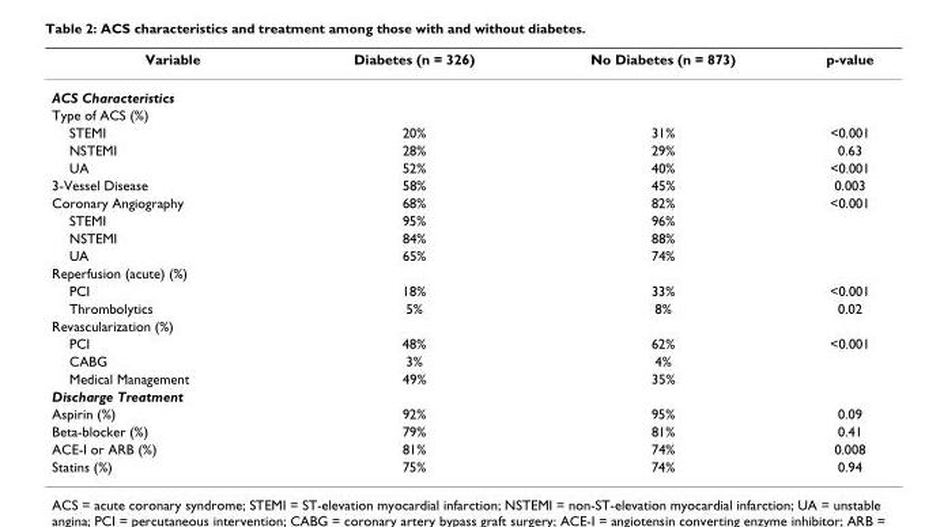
<table><thead><tr><td>Variable</td><td>Diabetes (n = 326)</td><td>No Diabetes (n = 873)</td><td>p-value</td></tr></thead><tbody><tr><td colspan="4">ACS Characteristics</td></tr><tr><td colspan="4">Type of ACS (%)</td></tr><tr><td>STEMI</td><td>20%</td><td>31%</td><td>&lt;0.001</td></tr><tr><td>NSTEMI</td><td>28%</td><td>29%</td><td>0.63</td></tr><tr><td>UA</td><td>52%</td><td>40%</td><td>&lt;0.001</td></tr><tr><td>3-Vessel Disease</td><td>58%</td><td>45%</td><td>0.003</td></tr><tr><td>Coronary Angiography</td><td>68%</td><td>82%</td><td>&lt;0.001</td></tr><tr><td>STEMI</td><td>95%</td><td>96%</td><td></td></tr><tr><td>NSTEMI</td><td>84%</td><td>88%</td><td></td></tr><tr><td>UA</td><td>65%</td><td>74%</td><td></td></tr><tr><td colspan="4">Reperfusion (acute) (%)</td></tr><tr><td>PCI</td><td>18%</td><td>33%</td><td>&lt;0.001</td></tr><tr><td>Thrombolytics</td><td>5%</td><td>8%</td><td>0.02</td></tr><tr><td colspan="4">Revascularization (%)</td></tr><tr><td>PCI</td><td>48%</td><td>62%</td><td>&lt;0.001</td></tr><tr><td>CABG</td><td>3%</td><td>4%</td><td></td></tr><tr><td>Medical Management</td><td>49%</td><td>35%</td><td></td></tr><tr><td colspan="4">Discharge Treatment</td></tr><tr><td>Aspirin (%)</td><td>92%</td><td>95%</td><td>0.09</td></tr><tr><td>Beta-blocker (%)</td><td>79%</td><td>81%</td><td>0.41</td></tr><tr><td>ACE-I or ARB (%)</td><td>81%</td><td>74%</td><td>0.008</td></tr><tr><td>Statins (%)</td><td>75%</td><td>74%</td><td>0.94</td></tr></tbody></table>